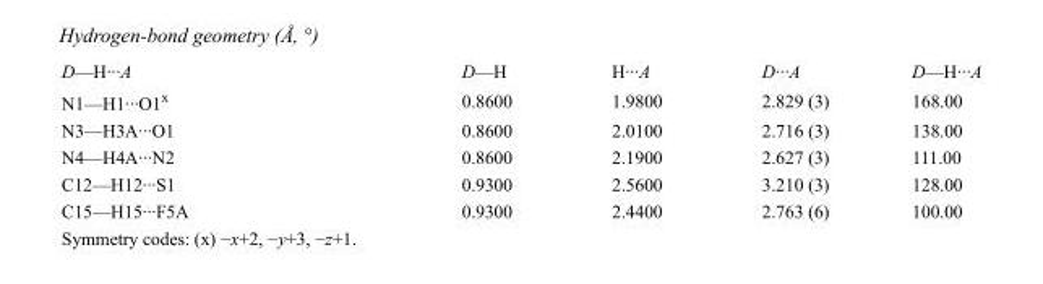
<table><tbody><tr><td>D—H···A</td><td>D—H</td><td>H···A</td><td>D···A</td><td>D—H···A</td></tr><tr><td>N1—H1···O1<sup>x</sup></td><td>0.8600</td><td>1.9800</td><td>2.829 (3)</td><td>168.00</td></tr><tr><td>N3—H3A···O1</td><td>0.8600</td><td>2.0100</td><td>2.716 (3)</td><td>138.00</td></tr><tr><td>N4—H4A···N2</td><td>0.8600</td><td>2.1900</td><td>2.627 (3)</td><td>111.00</td></tr><tr><td>C12—H12···S1</td><td>0.9300</td><td>2.5600</td><td>3.210 (3)</td><td>128.00</td></tr><tr><td>C15—H15···F5A</td><td>0.9300</td><td>2.4400</td><td>2.763 (6)</td><td>100.00</td></tr></tbody></table>